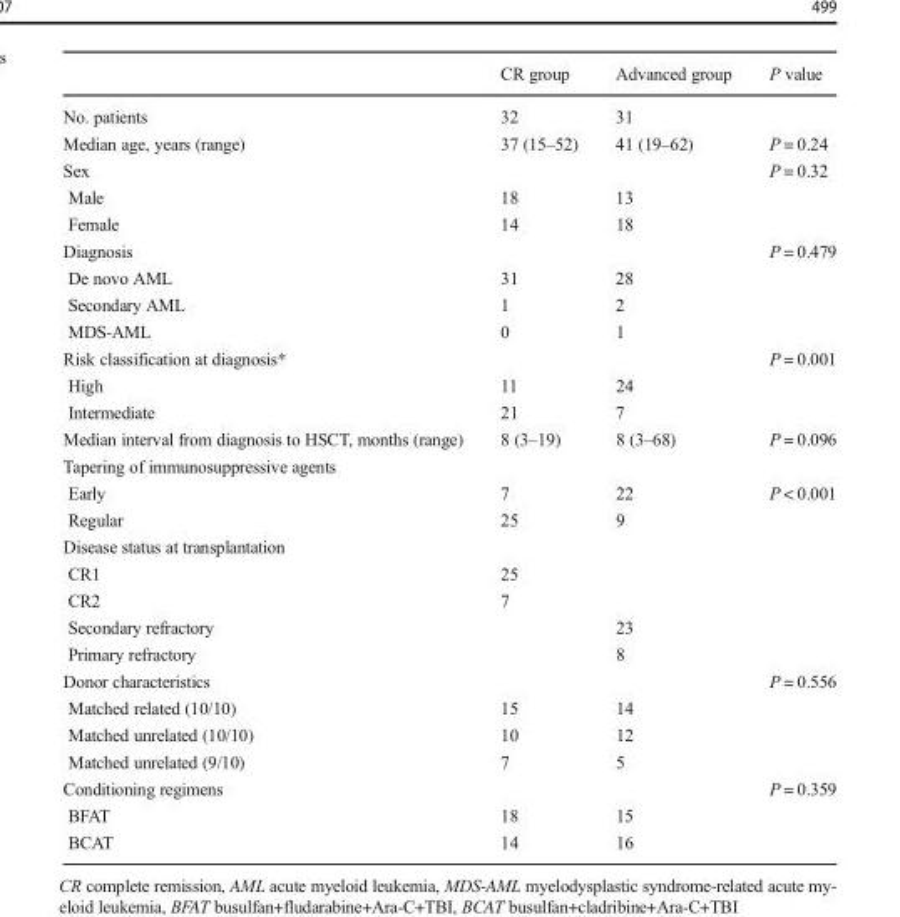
<table><thead><tr><td></td><td>CR group</td><td>Advanced group</td><td>P value</td></tr></thead><tbody><tr><td>No. patients</td><td>32</td><td>31</td><td></td></tr><tr><td>Median age, years (range)</td><td>37 (15–52)</td><td>41 (19–62)</td><td>P = 0.24</td></tr><tr><td>Sex</td><td></td><td></td><td>P = 0.32</td></tr><tr><td>Male</td><td>18</td><td>13</td><td></td></tr><tr><td>Female</td><td>14</td><td>18</td><td></td></tr><tr><td>Diagnosis</td><td></td><td></td><td>P = 0.479</td></tr><tr><td>De novo AML</td><td>31</td><td>28</td><td></td></tr><tr><td>Secondary AML</td><td>1</td><td>2</td><td></td></tr><tr><td>MDS-AML</td><td>0</td><td>1</td><td></td></tr><tr><td>Risk classification at diagnosis*</td><td></td><td></td><td>P = 0.001</td></tr><tr><td>High</td><td>11</td><td>24</td><td></td></tr><tr><td>Intermediate</td><td>21</td><td>7</td><td></td></tr><tr><td>Median interval from diagnosis to HSCT, months (range)</td><td>8 (3–19)</td><td>8 (3–68)</td><td>P = 0.096</td></tr><tr><td colspan="4">Tapering of immunosuppressive agents</td></tr><tr><td>Early</td><td>7</td><td>22</td><td>P &lt; 0.001</td></tr><tr><td>Regular</td><td>25</td><td>9</td><td></td></tr><tr><td colspan="4">Disease status at transplantation</td></tr><tr><td>CR1</td><td>25</td><td></td><td></td></tr><tr><td>CR2</td><td>7</td><td></td><td></td></tr><tr><td>Secondary refractory</td><td></td><td>23</td><td></td></tr><tr><td>Primary refractory</td><td></td><td>8</td><td></td></tr><tr><td>Donor characteristics</td><td></td><td></td><td>P = 0.556</td></tr><tr><td>Matched related (10/10)</td><td>15</td><td>14</td><td></td></tr><tr><td>Matched unrelated (10/10)</td><td>10</td><td>12</td><td></td></tr><tr><td>Matched unrelated (9/10)</td><td>7</td><td>5</td><td></td></tr><tr><td>Conditioning regimens</td><td></td><td></td><td>P = 0.359</td></tr><tr><td>BFAT</td><td>18</td><td>15</td><td></td></tr><tr><td>BCAT</td><td>14</td><td>16</td><td></td></tr></tbody></table>